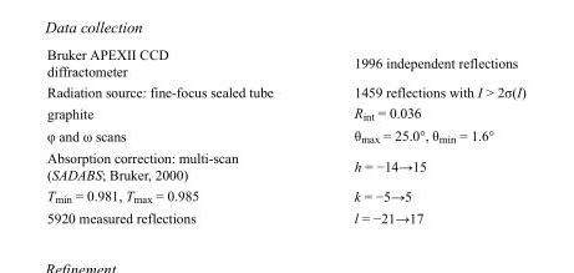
<table><tbody><tr><td>Bruker APEXII CCD diffractometer</td><td>1996 independent reflections</td></tr><tr><td>Radiation source: fine-focus sealed tube</td><td>1459 reflections with I &gt; 2σ(I)</td></tr><tr><td>graphite</td><td>R<sub>int</sub> = 0.036</td></tr><tr><td>φ and ω scans</td><td>θ<sub>max</sub> = 25.0°, θ<sub>min</sub> = 1.6°</td></tr><tr><td>Absorption correction: multi-scan (SADABS; Bruker, 2000)</td><td>h = −14→15</td></tr><tr><td>T<sub>min</sub> = 0.981, T<sub>max</sub> = 0.985</td><td>k = −5→5</td></tr><tr><td>5920 measured reflections</td><td>l = −21→17</td></tr></tbody></table>